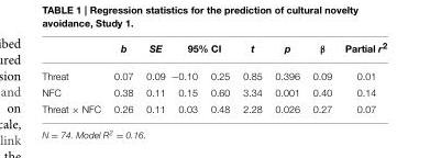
<table><thead><tr><td rowspan="2">Threat</td><td rowspan="2">b 0.07</td><td rowspan="2">SE 0.09</td><td colspan="2">95% CI</td><td rowspan="2">t 0.85</td><td rowspan="2">p 0.396</td><td rowspan="2">β 0.09</td><td rowspan="2">Partial r<sup>2</sup> 0.01</td></tr><tr><td>−0.10</td><td>0.25</td></tr></thead><tbody><tr><td>NFC</td><td>0.38</td><td>0.11</td><td>0.15</td><td>0.60</td><td>3.34</td><td>0.001</td><td>0.40</td><td>0.14</td></tr><tr><td>Threat × NFC</td><td>0.26</td><td>0.11</td><td>0.03</td><td>0.48</td><td>2.28</td><td>0.026</td><td>0.27</td><td>0.07</td></tr></tbody></table>